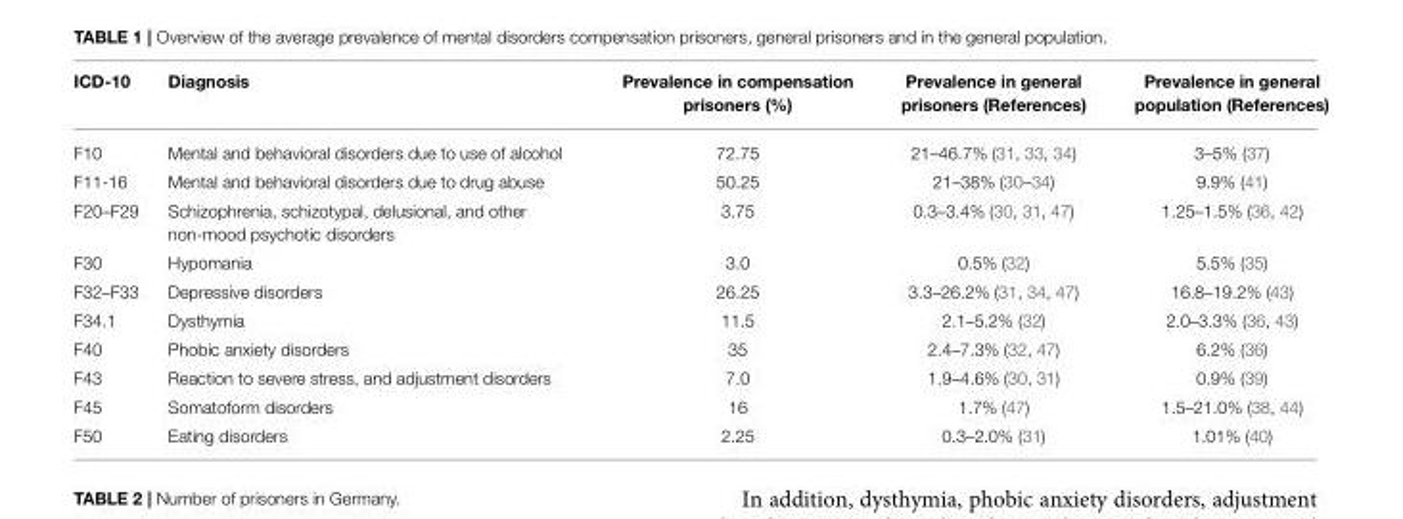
<table><thead><tr><td>ICD-10</td><td>Diagnosis</td><td>Prevalence in compensation prisoners (%)</td><td>Prevalence in general prisoners (References)</td><td>Prevalence in general population (References)</td></tr></thead><tbody><tr><td>F10</td><td>Mental and behavioral disorders due to use of alcohol</td><td>72.75</td><td>21–46.7% (31, 33, 34)</td><td>3–5% (37)</td></tr><tr><td>F11-16</td><td>Mental and behavioral disorders due to drug abuse</td><td>50.25</td><td>21–38% (30–34)</td><td>9.9% (41)</td></tr><tr><td>F20–F29</td><td>Schizophrenia, schizotypal, delusional, and other non-mood psychotic disorders</td><td>3.75</td><td>0.3–3.4% (30, 31, 47)</td><td>1.25–1.5% (36, 42)</td></tr><tr><td>F30</td><td>Hypomania</td><td>3.0</td><td>0.5% (32)</td><td>5.5% (35)</td></tr><tr><td>F32–F33</td><td>Depressive disorders</td><td>26.25</td><td>3.3–26.2% (31, 34, 47)</td><td>16.8–19.2% (43)</td></tr><tr><td>F34.1</td><td>Dysthymia</td><td>11.5</td><td>2.1–5.2% (32)</td><td>2.0–3.3% (36, 43)</td></tr><tr><td>F40</td><td>Phobic anxiety disorders</td><td>35</td><td>2.4–7.3% (32, 47)</td><td>6.2% (36)</td></tr><tr><td>F43</td><td>Reaction to severe stress, and adjustment disorders</td><td>7.0</td><td>1.9–4.6% (30, 31)</td><td>0.9% (39)</td></tr><tr><td>F45</td><td>Somatoform disorders</td><td>16</td><td>1.7% (47)</td><td>1.5–21.0% (38, 44)</td></tr><tr><td>F50</td><td>Eating disorders</td><td>2.25</td><td>0.3–2.0% (31)</td><td>1.01% (40)</td></tr></tbody></table>